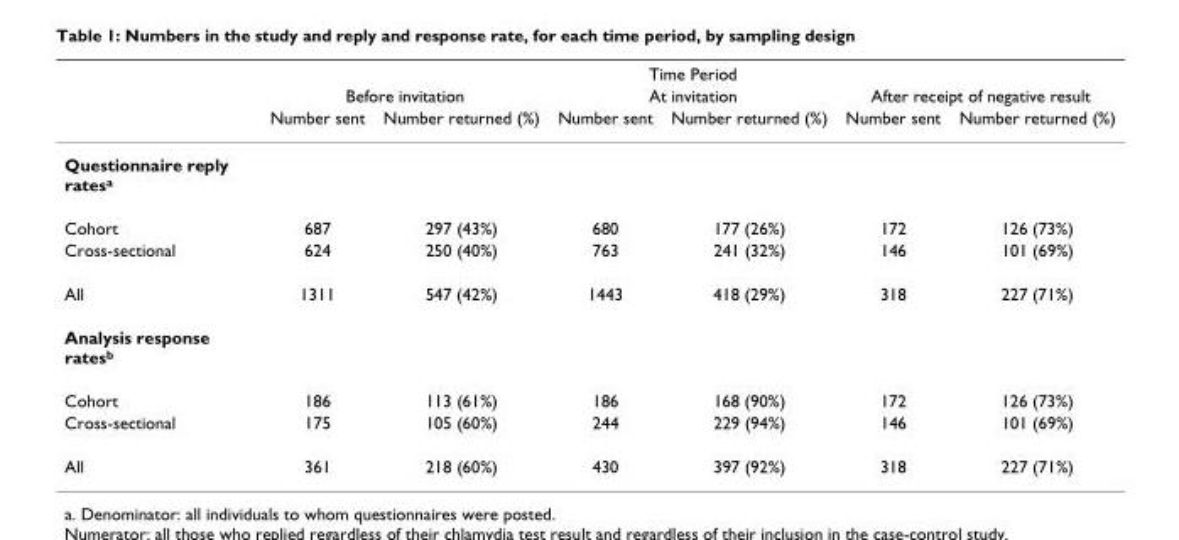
<table><thead><tr><td rowspan="3"></td><td colspan="6">Time Period</td></tr><tr><td colspan="2">Before invitation</td><td colspan="2">At invitation</td><td colspan="2">After receipt of negative result</td></tr><tr><td>Number sent</td><td>Number returned (%)</td><td>Number sent</td><td>Number returned (%)</td><td>Number sent</td><td>Number returned (%)</td></tr></thead><tbody><tr><td colspan="7">Questionnaire reply ratesa</td></tr><tr><td>Cohort</td><td>687</td><td>297 (43%)</td><td>680</td><td>177 (26%)</td><td>172</td><td>126 (73%)</td></tr><tr><td>Cross-sectional</td><td>624</td><td>250 (40%)</td><td>763</td><td>241 (32%)</td><td>146</td><td>101 (69%)</td></tr><tr><td>All</td><td>1311</td><td>547 (42%)</td><td>1443</td><td>418 (29%)</td><td>318</td><td>227 (71%)</td></tr><tr><td colspan="7">Analysis response ratesb</td></tr><tr><td>Cohort</td><td>186</td><td>113 (61%)</td><td>186</td><td>168 (90%)</td><td>172</td><td>126 (73%)</td></tr><tr><td>Cross-sectional</td><td>175</td><td>105 (60%)</td><td>244</td><td>229 (94%)</td><td>146</td><td>101 (69%)</td></tr><tr><td>All</td><td>361</td><td>218 (60%)</td><td>430</td><td>397 (92%)</td><td>318</td><td>227 (71%)</td></tr></tbody></table>